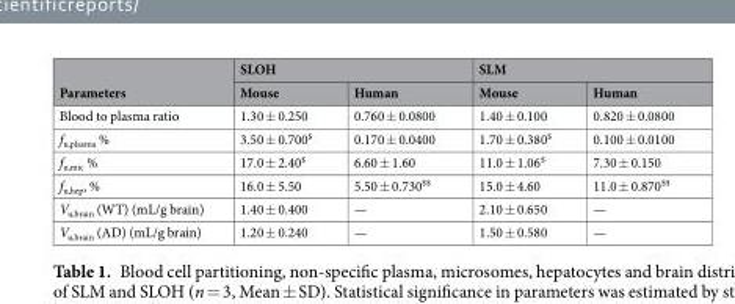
<table><thead><tr><td rowspan="2">Parameters</td><td colspan="2">SLOH</td><td colspan="2">SLM</td></tr><tr><td>Mouse</td><td>Human</td><td>Mouse</td><td>Human</td></tr></thead><tbody><tr><td>Blood to plasma ratio</td><td>1.30 ± 0.250</td><td>0.760 ± 0.0800</td><td>1.40 ± 0.100</td><td>0.820 ± 0.0800</td></tr><tr><td>f<sub>u,plasma</sub> %</td><td>3.50 ± 0.700<sup>$</sup></td><td>0.170 ± 0.0400</td><td>1.70 ± 0.380<sup>$</sup></td><td>0.100 ± 0.0100</td></tr><tr><td>f<sub>u,mic</sub> %</td><td>17.0 ± 2.40<sup>$</sup></td><td>6.60 ± 1.60</td><td>11.0 ± 1.06<sup>$</sup></td><td>7.30 ± 0.150</td></tr><tr><td>f<sub>u,hep</sub>, %</td><td>16.0 ± 5.50</td><td>5.50 ± 0.730<sup>$$</sup></td><td>15.0 ± 4.60</td><td>11.0 ± 0.870<sup>$$</sup></td></tr><tr><td>V<sub>u,brain</sub> (WT) (mL/g brain)</td><td>1.40 ± 0.400</td><td>—</td><td>2.10 ± 0.650</td><td>—</td></tr><tr><td>V<sub>u,brain</sub> (AD) (mL/g brain)</td><td>1.20 ± 0.240</td><td>—</td><td>1.50 ± 0.580</td><td>—</td></tr></tbody></table>